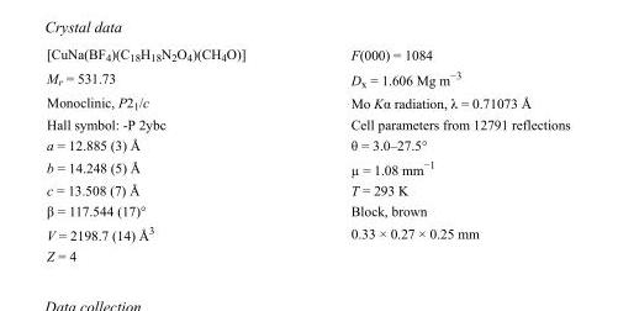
<table><tbody><tr><td>[CuNa(BF<sub>4</sub>)(C<sub>18</sub>H<sub>18</sub>N<sub>2</sub>O<sub>4</sub>)(CH<sub>4</sub>O)]</td><td>F(000) = 1084</td></tr><tr><td>M<sub>r</sub> = 531.73</td><td>D<sub>x</sub> = 1.606 Mg m<sup>−3</sup></td></tr><tr><td>Monoclinic, P2<sub>1</sub>/c</td><td>Mo Kα radiation, λ = 0.71073 Å</td></tr><tr><td>Hall symbol: -P 2ybc</td><td>Cell parameters from 12791 reflections</td></tr><tr><td>a = 12.885 (3) Å</td><td>θ = 3.0–27.5°</td></tr><tr><td>b = 14.248 (5) Å</td><td>µ = 1.08 mm<sup>−1</sup></td></tr><tr><td>c = 13.508 (7) Å</td><td>T = 293 K</td></tr><tr><td>β = 117.544 (17)°</td><td>Block, brown</td></tr><tr><td>V = 2198.7 (14) Å<sup>3</sup></td><td>0.33 × 0.27 × 0.25 mm</td></tr><tr><td>Z = 4</td><td></td></tr></tbody></table>